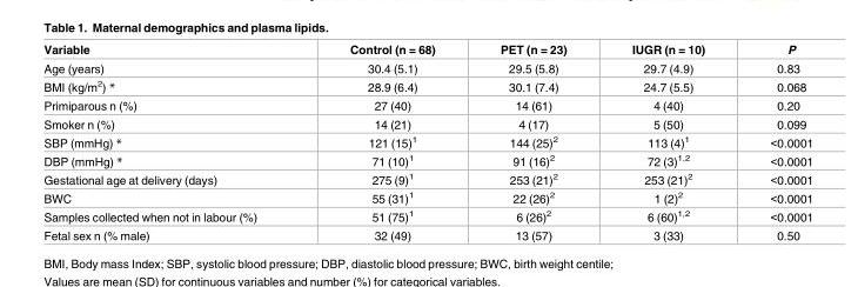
<table><thead><tr><td>Variable</td><td>Control (n = 68)</td><td>PET (n = 23)</td><td>IUGR (n = 10)</td><td>P</td></tr></thead><tbody><tr><td>Age (years)</td><td>30.4 (5.1)</td><td>29.5 (5.8)</td><td>29.7 (4.9)</td><td>0.83</td></tr><tr><td>BMI (kg/m<sup>2</sup>) *</td><td>28.9 (6.4)</td><td>30.1 (7.4)</td><td>24.7 (5.5)</td><td>0.068</td></tr><tr><td>Primiparous n (%)</td><td>27 (40)</td><td>14 (61)</td><td>4 (40)</td><td>0.20</td></tr><tr><td>Smoker n (%)</td><td>14 (21)</td><td>4 (17)</td><td>5 (50)</td><td>0.099</td></tr><tr><td>SBP (mmHg) *</td><td>121 (15)<sup>1</sup></td><td>144 (25)<sup>2</sup></td><td>113 (4)<sup>1</sup></td><td>&lt;0.0001</td></tr><tr><td>DBP (mmHg) *</td><td>71 (10)<sup>1</sup></td><td>91 (16)<sup>2</sup></td><td>72 (3)<sup>1,2</sup></td><td>&lt;0.0001</td></tr><tr><td>Gestational age at delivery (days)</td><td>275 (9)<sup>1</sup></td><td>253 (21)<sup>2</sup></td><td>253 (21)<sup>2</sup></td><td>&lt;0.0001</td></tr><tr><td>BWC</td><td>55 (31)<sup>1</sup></td><td>22 (26)<sup>2</sup></td><td>1 (2)<sup>2</sup></td><td>&lt;0.0001</td></tr><tr><td>Samples collected when not in labour (%)</td><td>51 (75)<sup>1</sup></td><td>6 (26)<sup>2</sup></td><td>6 (60)<sup>1,2</sup></td><td>&lt;0.0001</td></tr><tr><td>Fetal sex n (% male)</td><td>32 (49)</td><td>13 (57)</td><td>3 (33)</td><td>0.50</td></tr></tbody></table>